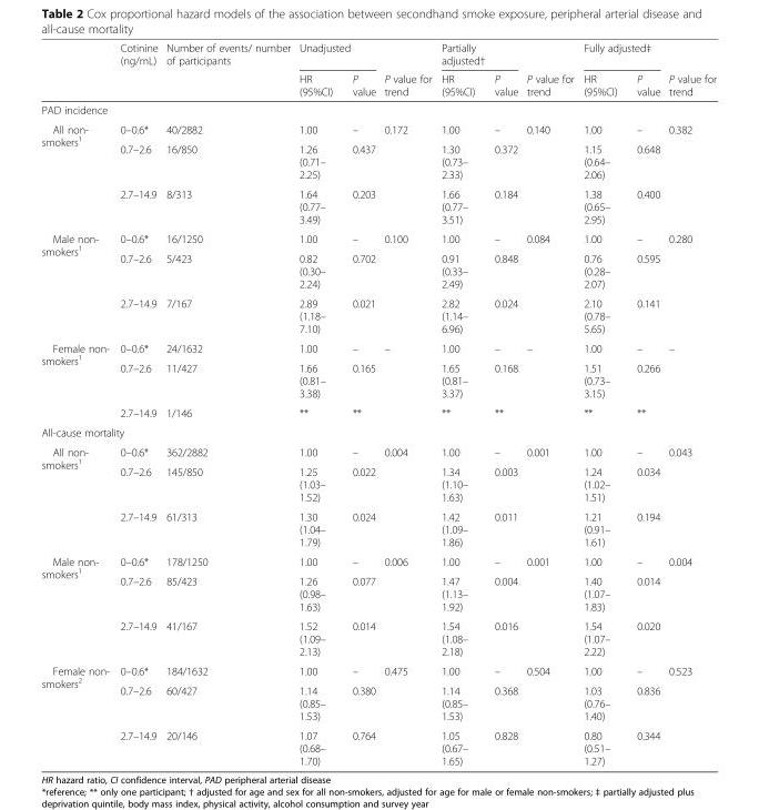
<table><thead><tr><td rowspan="2"></td><td rowspan="2">Cotinine (ng/mL)</td><td rowspan="2">Number of events/ number of participants</td><td colspan="2">Unadjusted</td><td rowspan="2">P value for trend</td><td colspan="2">Partially adjusted†</td><td rowspan="2">P value for trend</td><td colspan="2">Fully adjusted‡</td><td rowspan="2">P value for trend</td></tr><tr><td>HR (95%CI)</td><td>P value</td><td>HR (95%CI)</td><td>P value</td><td>HR (95%CI)</td><td>P value</td></tr></thead><tbody><tr><td colspan="12">PAD incidence</td></tr><tr><td rowspan="3">All non- smokers<sup>1</sup></td><td>0–0.6*</td><td>40/2882</td><td>1.00</td><td>–</td><td>0.172</td><td>1.00</td><td>–</td><td>0.140</td><td>1.00</td><td>–</td><td>0.382</td></tr><tr><td>0.7–2.6</td><td>16/850</td><td>1.26 (0.71– 2.25)</td><td>0.437</td><td></td><td>1.30 (0.73– 2.33)</td><td>0.372</td><td></td><td>1.15 (0.64– 2.06)</td><td>0.648</td><td></td></tr><tr><td>2.7–14.9</td><td>8/313</td><td>1.64 (0.77– 3.49)</td><td>0.203</td><td></td><td>1.66 (0.77– 3.51)</td><td>0.184</td><td></td><td>1.38 (0.65– 2.95)</td><td>0.400</td><td></td></tr><tr><td rowspan="3">Male non- smokers<sup>1</sup></td><td>0–0.6*</td><td>16/1250</td><td>1.00</td><td>–</td><td>0.100</td><td>1.00</td><td>–</td><td>0.084</td><td>1.00</td><td>–</td><td>0.280</td></tr><tr><td>0.7–2.6</td><td>5/423</td><td>0.82 (0.30– 2.24)</td><td>0.702</td><td></td><td>0.91 (0.33– 2.49)</td><td>0.848</td><td></td><td>0.76 (0.28– 2.07)</td><td>0.595</td><td></td></tr><tr><td>2.7–14.9</td><td>7/167</td><td>2.89 (1.18– 7.10)</td><td>0.021</td><td></td><td>2.82 (1.14– 6.96)</td><td>0.024</td><td></td><td>2.10 (0.78– 5.65)</td><td>0.141</td><td></td></tr><tr><td rowspan="3">Female non- smokers<sup>1</sup></td><td>0–0.6*</td><td>24/1632</td><td>1.00</td><td>–</td><td>–</td><td>1.00</td><td>–</td><td>–</td><td>1.00</td><td>–</td><td>–</td></tr><tr><td>0.7–2.6</td><td>11/427</td><td>1.66 (0.81– 3.38)</td><td>0.165</td><td></td><td>1.65 (0.81– 3.37)</td><td>0.168</td><td></td><td>1.51 (0.73– 3.15)</td><td>0.266</td><td></td></tr><tr><td>2.7–14.9</td><td>1/146</td><td>**</td><td>**</td><td></td><td>**</td><td>**</td><td></td><td>**</td><td>**</td><td></td></tr><tr><td colspan="12">All-cause mortality</td></tr><tr><td rowspan="3">All non- smokers<sup>1</sup></td><td>0–0.6*</td><td>362/2882</td><td>1.00</td><td>–</td><td>0.004</td><td>1.00</td><td>–</td><td>0.001</td><td>1.00</td><td>–</td><td>0.043</td></tr><tr><td>0.7–2.6</td><td>145/850</td><td>1.25 (1.03– 1.52)</td><td>0.022</td><td></td><td>1.34 (1.10– 1.63)</td><td>0.003</td><td></td><td>1.24 (1.02– 1.51)</td><td>0.034</td><td></td></tr><tr><td>2.7–14.9</td><td>61/313</td><td>1.30 (1.04– 1.79)</td><td>0.024</td><td></td><td>1.42 (1.09– 1.86)</td><td>0.011</td><td></td><td>1.21 (0.91– 1.61)</td><td>0.194</td><td></td></tr><tr><td rowspan="3">Male non- smokers<sup>1</sup></td><td>0–0.6*</td><td>178/1250</td><td>1.00</td><td>–</td><td>0.006</td><td>1.00</td><td>–</td><td>0.001</td><td>1.00</td><td>–</td><td>0.004</td></tr><tr><td>0.7–2.6</td><td>85/423</td><td>1.26 (0.98– 1.63)</td><td>0.077</td><td></td><td>1.47 (1.13– 1.92)</td><td>0.004</td><td></td><td>1.40 (1.07– 1.83)</td><td>0.014</td><td></td></tr><tr><td>2.7–14.9</td><td>41/167</td><td>1.52 (1.09– 2.13)</td><td>0.014</td><td></td><td>1.54 (1.08– 2.18)</td><td>0.016</td><td></td><td>1.54 (1.07– 2.22)</td><td>0.020</td><td></td></tr><tr><td rowspan="3">Female non- smokers<sup>2</sup></td><td>0–0.6*</td><td>184/1632</td><td>1.00</td><td>–</td><td>0.475</td><td>1.00</td><td>–</td><td>0.504</td><td>1.00</td><td>–</td><td>0.523</td></tr><tr><td>0.7–2.6</td><td>60/427</td><td>1.14 (0.85– 1.53)</td><td>0.380</td><td></td><td>1.14 (0.85– 1.53)</td><td>0.368</td><td></td><td>1.03 (0.76– 1.40)</td><td>0.836</td><td></td></tr><tr><td>2.7–14.9</td><td>20/146</td><td>1.07 (0.68– 1.70)</td><td>0.764</td><td></td><td>1.05 (0.67– 1.65)</td><td>0.828</td><td></td><td>0.80 (0.51– 1.27)</td><td>0.344</td><td></td></tr></tbody></table>